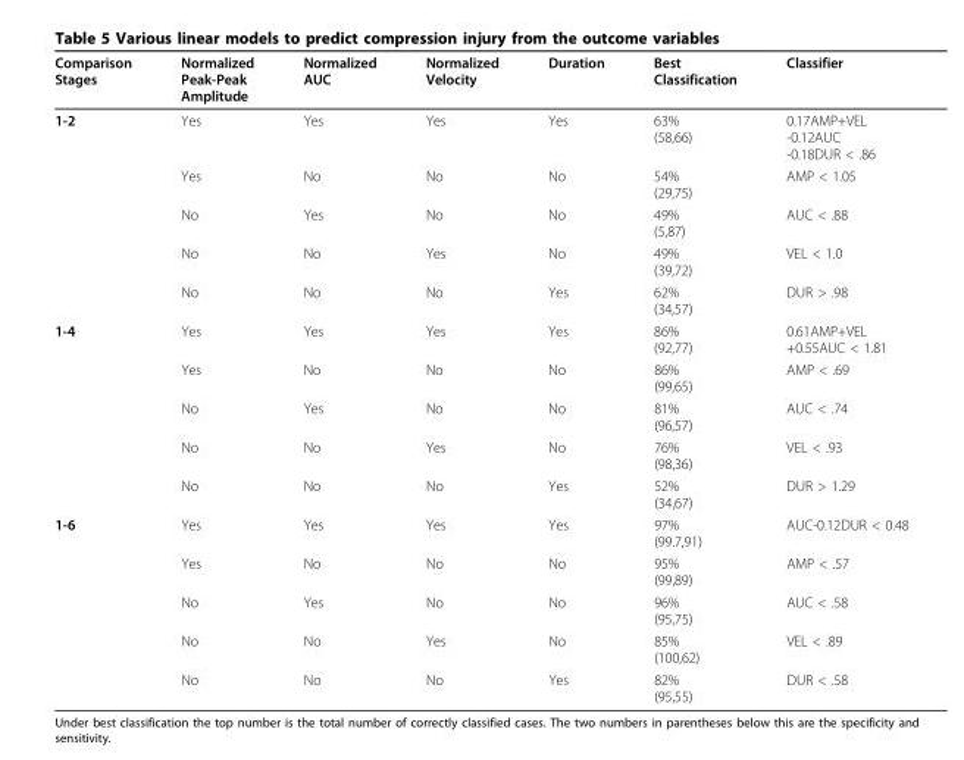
<table><thead><tr><td>Comparison Stages</td><td>Normalized Peak-Peak Amplitude</td><td>Normalized AUC</td><td>Normalized Velocity</td><td>Duration</td><td>Best Classification</td><td>Classifier</td></tr></thead><tbody><tr><td rowspan="5">1-2</td><td>Yes</td><td>Yes</td><td>Yes</td><td>Yes</td><td>63% (58,66)</td><td>0.17AMP+VEL -0.12AUC -0.18DUR &lt; .86</td></tr><tr><td>Yes</td><td>No</td><td>No</td><td>No</td><td>54% (29,75)</td><td>AMP &lt; 1.05</td></tr><tr><td>No</td><td>Yes</td><td>No</td><td>No</td><td>49% (5,87)</td><td>AUC &lt; .88</td></tr><tr><td>No</td><td>No</td><td>Yes</td><td>No</td><td>49% (39,72)</td><td>VEL &lt; 1.0</td></tr><tr><td>No</td><td>No</td><td>No</td><td>Yes</td><td>62% (34,57)</td><td>DUR &gt; .98</td></tr><tr><td rowspan="5">1-4</td><td>Yes</td><td>Yes</td><td>Yes</td><td>Yes</td><td>86% (92,77)</td><td>0.61AMP+VEL +0.55AUC &lt; 1.81</td></tr><tr><td>Yes</td><td>No</td><td>No</td><td>No</td><td>86% (99,65)</td><td>AMP &lt; .69</td></tr><tr><td>No</td><td>Yes</td><td>No</td><td>No</td><td>81% (96,57)</td><td>AUC &lt; .74</td></tr><tr><td>No</td><td>No</td><td>Yes</td><td>No</td><td>76% (98,36)</td><td>VEL &lt; .93</td></tr><tr><td>No</td><td>No</td><td>No</td><td>Yes</td><td>52% (34,67)</td><td>DUR &gt; 1.29</td></tr><tr><td rowspan="5">1-6</td><td>Yes</td><td>Yes</td><td>Yes</td><td>Yes</td><td>97% (99.7,91)</td><td>AUC-0.12DUR &lt; 0.48</td></tr><tr><td>Yes</td><td>No</td><td>No</td><td>No</td><td>95% (99,89)</td><td>AMP &lt; .57</td></tr><tr><td>No</td><td>Yes</td><td>No</td><td>No</td><td>96% (95,75)</td><td>AUC &lt; .58</td></tr><tr><td>No</td><td>No</td><td>Yes</td><td>No</td><td>85% (100,62)</td><td>VEL &lt; .89</td></tr><tr><td>No</td><td>No</td><td>No</td><td>Yes</td><td>82% (95,55)</td><td>DUR &lt; .58</td></tr></tbody></table>